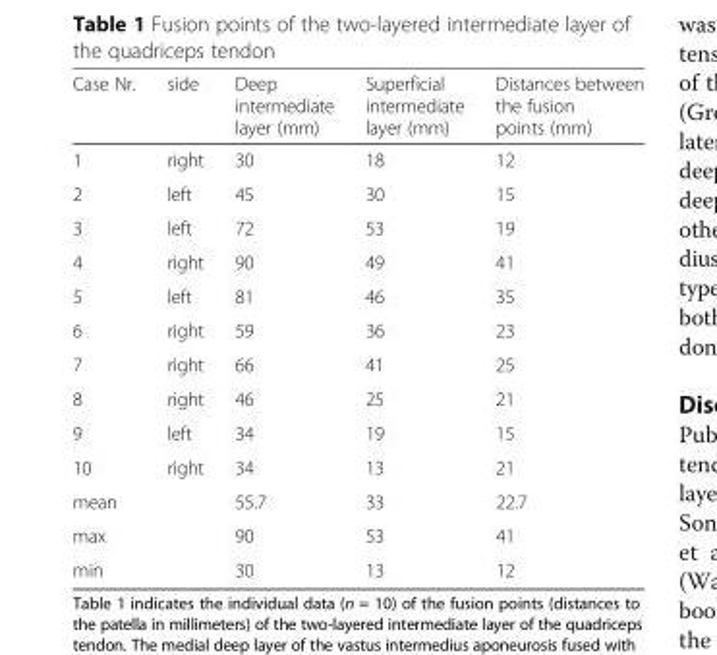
<table><thead><tr><td>Case Nr.</td><td>side</td><td>Deep intermediate layer (mm)</td><td>Superficial intermediate layer (mm)</td><td>Distances between the fusion points (mm)</td></tr></thead><tbody><tr><td>1</td><td>right</td><td>30</td><td>18</td><td>12</td></tr><tr><td>2</td><td>left</td><td>45</td><td>30</td><td>15</td></tr><tr><td>3</td><td>left</td><td>72</td><td>53</td><td>19</td></tr><tr><td>4</td><td>right</td><td>90</td><td>49</td><td>41</td></tr><tr><td>5</td><td>left</td><td>81</td><td>46</td><td>35</td></tr><tr><td>6</td><td>right</td><td>59</td><td>36</td><td>23</td></tr><tr><td>7</td><td>right</td><td>66</td><td>41</td><td>25</td></tr><tr><td>8</td><td>right</td><td>46</td><td>25</td><td>21</td></tr><tr><td>9</td><td>left</td><td>34</td><td>19</td><td>15</td></tr><tr><td>10</td><td>right</td><td>34</td><td>13</td><td>21</td></tr><tr><td>mean</td><td></td><td>55.7</td><td>33</td><td>22.7</td></tr><tr><td>max</td><td></td><td>90</td><td>53</td><td>41</td></tr><tr><td>min</td><td></td><td>30</td><td>13</td><td>12</td></tr></tbody></table>